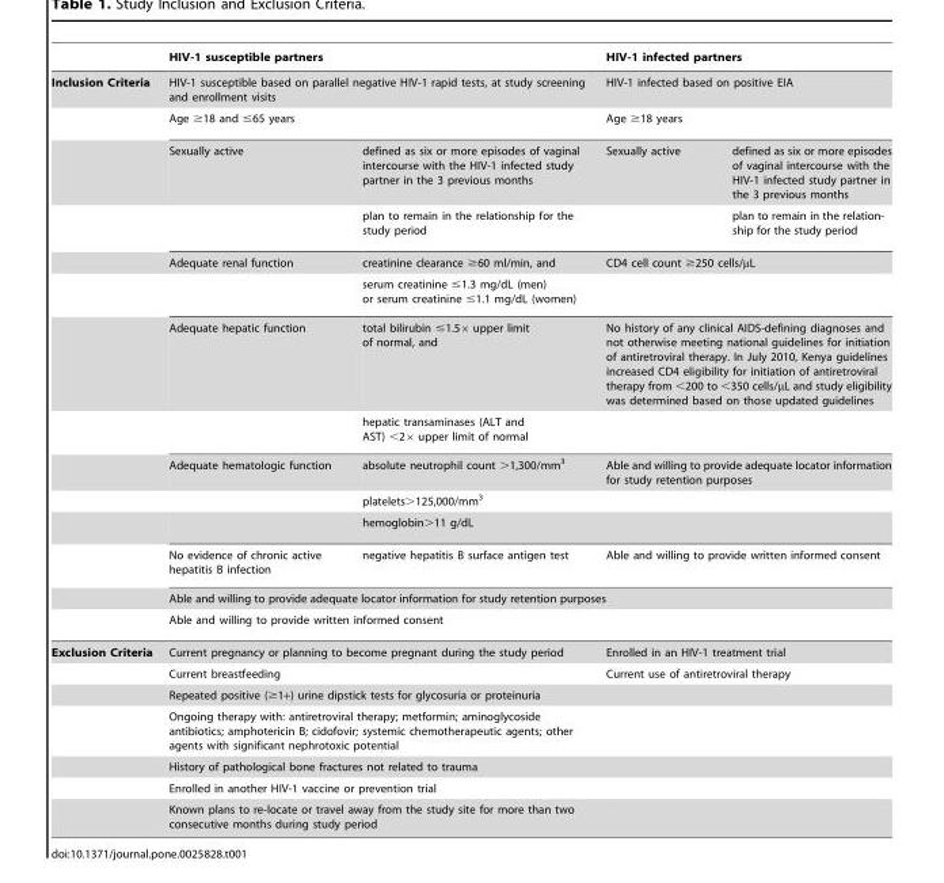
<table><thead><tr><td rowspan="4">Inclusion Criteria</td><td rowspan="3" colspan="2">HIV-1 susceptible partners HIV-1 susceptible based on parallel negative HIV-1 rapid tests, at study screening and enrollment visits Age ≥18 and ≤65 years</td><td rowspan="3" colspan="2">HIV-1 infected partners HIV-1 infected based on positive EIA Age ≥18 years</td></tr><tr></tr><tr></tr><tr><td>Sexually active</td><td>defined as six or more episodes of vaginal intercourse with the HIV-1 infected study partner in the 3 previous months</td><td>Sexually active</td><td>defined as six or more episodes of vaginal intercourse with the HIV-1 infected study partner in the 3 previous months</td></tr></thead><tbody><tr><td></td><td></td><td>plan to remain in the relationship for the study period</td><td></td><td>plan to remain in the relation- ship for the study period</td></tr><tr><td></td><td>Adequate renal function</td><td>creatinine clearance ≥60 ml/min, and</td><td colspan="2">CD4 cell count ≥250 cells/µL</td></tr><tr><td></td><td></td><td>serum creatinine ≤1.3 mg/dL (men) or serum creatinine ≤1.1 mg/dL (women)</td><td colspan="2"></td></tr><tr><td></td><td>Adequate hepatic function</td><td>total bilirubin ≤1.5× upper limit of normal, and</td><td colspan="2">No history of any clinical AIDS-defining diagnoses and not otherwise meeting national guidelines for initiation of antiretroviral therapy. In July 2010, Kenya guidelines increased CD4 eligibility for initiation of antiretroviral therapy from &lt;200 to &lt;350 cells/µL and study eligibility was determined based on those updated guidelines</td></tr><tr><td></td><td></td><td>hepatic transaminases (ALT and AST) &lt;2× upper limit of normal</td><td colspan="2"></td></tr><tr><td></td><td>Adequate hematologic function</td><td>absolute neutrophil count &gt;1,300/mm<sup>3</sup></td><td colspan="2">Able and willing to provide adequate locator information for study retention purposes</td></tr><tr><td></td><td></td><td>platelets&gt;125,000/mm<sup>3</sup></td><td colspan="2"></td></tr><tr><td></td><td></td><td>hemoglobin&gt;11 g/dL</td><td colspan="2"></td></tr><tr><td></td><td>No evidence of chronic active hepatitis B infection</td><td>negative hepatitis B surface antigen test</td><td colspan="2">Able and willing to provide written informed consent</td></tr><tr><td></td><td colspan="2">Able and willing to provide adequate locator information for study retention purposes</td><td colspan="2"></td></tr><tr><td></td><td colspan="2">Able and willing to provide written informed consent</td><td colspan="2"></td></tr><tr><td rowspan="7">Exclusion Criteria</td><td colspan="2">Current pregnancy or planning to become pregnant during the study period</td><td colspan="2">Enrolled in an HIV-1 treatment trial</td></tr><tr><td colspan="2">Current breastfeeding</td><td colspan="2">Current use of antiretroviral therapy</td></tr><tr><td colspan="2">Repeated positive (≥1+) urine dipstick tests for glycosuria or proteinuria</td><td colspan="2"></td></tr><tr><td colspan="2">Ongoing therapy with: antiretroviral therapy; metformin; aminoglycoside antibiotics; amphotericin B; cidofovir; systemic chemotherapeutic agents; other agents with significant nephrotoxic potential</td><td colspan="2"></td></tr><tr><td colspan="2">History of pathological bone fractures not related to trauma</td><td colspan="2"></td></tr><tr><td colspan="2">Enrolled in another HIV-1 vaccine or prevention trial</td><td colspan="2"></td></tr><tr><td colspan="2">Known plans to re-locate or travel away from the study site for more than two consecutive months during study period</td><td colspan="2"></td></tr></tbody></table>